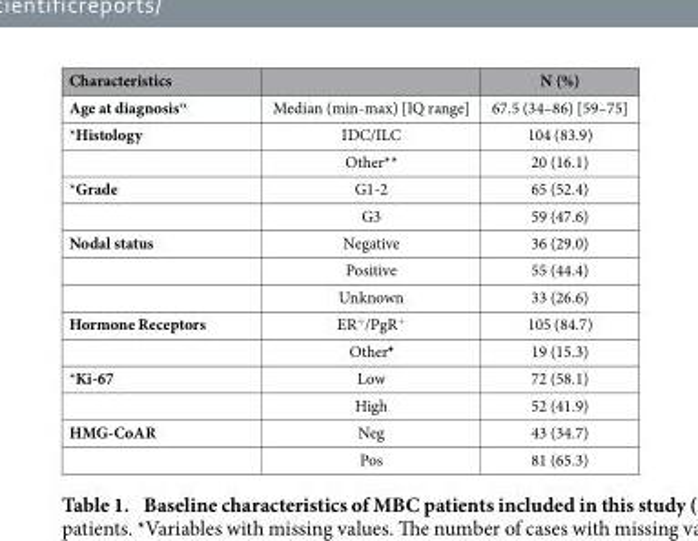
<table><thead><tr><td>Characteristics</td><td></td><td>N (%)</td></tr></thead><tbody><tr><td>Age at diagnosisα</td><td>Median (min-max) [IQ range]</td><td>67.5 (34–86) [59–75]</td></tr><tr><td rowspan="2">*Histology</td><td>IDC/ILC</td><td>104 (83.9)</td></tr><tr><td>Other**</td><td>20 (16.1)</td></tr><tr><td rowspan="2">*Grade</td><td>G1-2</td><td>65 (52.4)</td></tr><tr><td>G3</td><td>59 (47.6)</td></tr><tr><td rowspan="3">Nodal status</td><td>Negative</td><td>36 (29.0)</td></tr><tr><td>Positive</td><td>55 (44.4)</td></tr><tr><td>Unknown</td><td>33 (26.6)</td></tr><tr><td rowspan="2">Hormone Receptors</td><td>ER<sup>+</sup>/PgR<sup>+</sup></td><td>105 (84.7)</td></tr><tr><td>Other•</td><td>19 (15.3)</td></tr><tr><td rowspan="2">*Ki-67</td><td>Low</td><td>72 (58.1)</td></tr><tr><td>High</td><td>52 (41.9)</td></tr><tr><td rowspan="2">HMG-CoAR</td><td>Neg</td><td>43 (34.7)</td></tr><tr><td>Pos</td><td>81 (65.3)</td></tr></tbody></table>